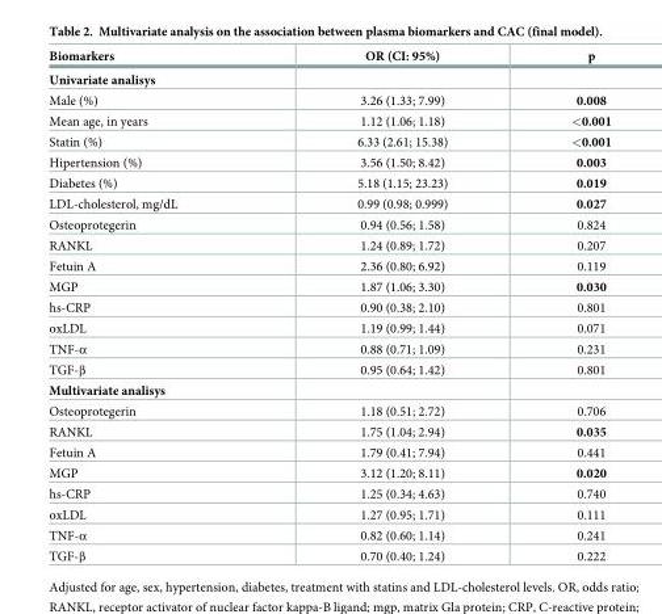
<table><thead><tr><td>Biomarkers</td><td>OR (CI: 95%)</td><td>p</td></tr></thead><tbody><tr><td colspan="3">Univariate analisys</td></tr><tr><td>Male (%)</td><td>3.26 (1.33; 7.99)</td><td>0.008</td></tr><tr><td>Mean age, in years</td><td>1.12 (1.06; 1.18)</td><td>&lt;0.001</td></tr><tr><td>Statin (%)</td><td>6.33 (2.61; 15.38)</td><td>&lt;0.001</td></tr><tr><td>Hipertension (%)</td><td>3.56 (1.50; 8.42)</td><td>0.003</td></tr><tr><td>Diabetes (%)</td><td>5.18 (1.15; 23.23)</td><td>0.019</td></tr><tr><td>LDL-cholesterol, mg/dL</td><td>0.99 (0.98; 0.999)</td><td>0.027</td></tr><tr><td>Osteoprotegerin</td><td>0.94 (0.56; 1.58)</td><td>0.824</td></tr><tr><td>RANKL</td><td>1.24 (0.89; 1.72)</td><td>0.207</td></tr><tr><td>Fetuin A</td><td>2.36 (0.80; 6.92)</td><td>0.119</td></tr><tr><td>MGP</td><td>1.87 (1.06; 3.30)</td><td>0.030</td></tr><tr><td>hs-CRP</td><td>0.90 (0.38; 2.10)</td><td>0.801</td></tr><tr><td>oxLDL</td><td>1.19 (0.99; 1.44)</td><td>0.071</td></tr><tr><td>TNF-α</td><td>0.88 (0.71; 1.09)</td><td>0.231</td></tr><tr><td>TGF-β</td><td>0.95 (0.64; 1.42)</td><td>0.801</td></tr><tr><td colspan="3">Multivariate analisys</td></tr><tr><td>Osteoprotegerin</td><td>1.18 (0.51; 2.72)</td><td>0.706</td></tr><tr><td>RANKL</td><td>1.75 (1.04; 2.94)</td><td>0.035</td></tr><tr><td>Fetuin A</td><td>1.79 (0.41; 7.94)</td><td>0.441</td></tr><tr><td>MGP</td><td>3.12 (1.20; 8.11)</td><td>0.020</td></tr><tr><td>hs-CRP</td><td>1.25 (0.34; 4.63)</td><td>0.740</td></tr><tr><td>oxLDL</td><td>1.27 (0.95; 1.71)</td><td>0.111</td></tr><tr><td>TNF-α</td><td>0.82 (0.60; 1.14)</td><td>0.241</td></tr><tr><td>TGF-β</td><td>0.70 (0.40; 1.24)</td><td>0.222</td></tr></tbody></table>